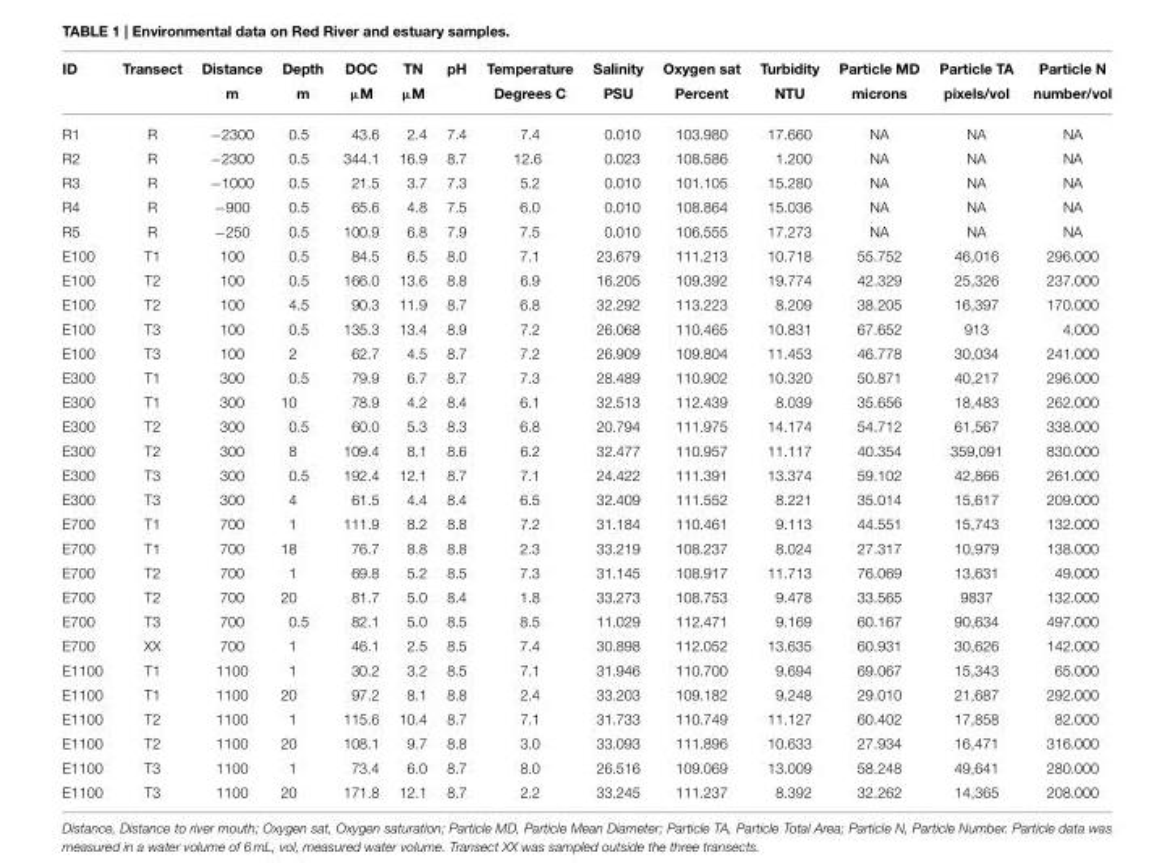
<table><thead><tr><td>ID</td><td>Transect</td><td>Distance m</td><td>Depth m</td><td>DOC µM</td><td>TN µM</td><td>pH</td><td>Temperature Degrees C</td><td>Salinity PSU</td><td>Oxygen sat Percent</td><td>Turbidity NTU</td><td>Particle MD microns</td><td>Particle TA pixels/vol</td><td>Particle N number/vol</td></tr></thead><tbody><tr><td>R1</td><td>R</td><td>−2300</td><td>0.5</td><td>43.6</td><td>2.4</td><td>7.4</td><td>7.4</td><td>0.010</td><td>103.980</td><td>17.660</td><td>NA</td><td>NA</td><td>NA</td></tr><tr><td>R2</td><td>R</td><td>−2300</td><td>0.5</td><td>344.1</td><td>16.9</td><td>8.7</td><td>12.6</td><td>0.023</td><td>108.586</td><td>1.200</td><td>NA</td><td>NA</td><td>NA</td></tr><tr><td>R3</td><td>R</td><td>−1000</td><td>0.5</td><td>21.5</td><td>3.7</td><td>7.3</td><td>5.2</td><td>0.010</td><td>101.105</td><td>15.280</td><td>NA</td><td>NA</td><td>NA</td></tr><tr><td>R4</td><td>R</td><td>−900</td><td>0.5</td><td>65.6</td><td>4.8</td><td>7.5</td><td>6.0</td><td>0.010</td><td>108.864</td><td>15.036</td><td>NA</td><td>NA</td><td>NA</td></tr><tr><td>R5</td><td>R</td><td>−250</td><td>0.5</td><td>100.9</td><td>6.8</td><td>7.9</td><td>7.5</td><td>0.010</td><td>106.555</td><td>17.273</td><td>NA</td><td>NA</td><td>NA</td></tr><tr><td>E100</td><td>T1</td><td>100</td><td>0.5</td><td>84.5</td><td>6.5</td><td>8.0</td><td>7.1</td><td>23.679</td><td>111.213</td><td>10.718</td><td>55.752</td><td>46,016</td><td>296.000</td></tr><tr><td>E100</td><td>T2</td><td>100</td><td>0.5</td><td>166.0</td><td>13.6</td><td>8.8</td><td>6.9</td><td>16.205</td><td>109.392</td><td>19.774</td><td>42.329</td><td>25,326</td><td>237.000</td></tr><tr><td>E100</td><td>T2</td><td>100</td><td>4.5</td><td>90.3</td><td>11.9</td><td>8.7</td><td>6.8</td><td>32.292</td><td>113.223</td><td>8.209</td><td>38.205</td><td>16,397</td><td>170.000</td></tr><tr><td>E100</td><td>T3</td><td>100</td><td>0.5</td><td>135.3</td><td>13.4</td><td>8.9</td><td>7.2</td><td>26.068</td><td>110.465</td><td>10.831</td><td>67.652</td><td>913</td><td>4.000</td></tr><tr><td>E100</td><td>T3</td><td>100</td><td>2</td><td>62.7</td><td>4.5</td><td>8.7</td><td>7.2</td><td>26.909</td><td>109.804</td><td>11.453</td><td>46.778</td><td>30,034</td><td>241.000</td></tr><tr><td>E300</td><td>T1</td><td>300</td><td>0.5</td><td>79.9</td><td>6.7</td><td>8.7</td><td>7.3</td><td>28.489</td><td>110.902</td><td>10.320</td><td>50.871</td><td>40,217</td><td>296.000</td></tr><tr><td>E300</td><td>T1</td><td>300</td><td>10</td><td>78.9</td><td>4.2</td><td>8.4</td><td>6.1</td><td>32.513</td><td>112.439</td><td>8.039</td><td>35.656</td><td>18,483</td><td>262.000</td></tr><tr><td>E300</td><td>T2</td><td>300</td><td>0.5</td><td>60.0</td><td>5.3</td><td>8.3</td><td>6.8</td><td>20.794</td><td>111.975</td><td>14.174</td><td>54.712</td><td>61,567</td><td>338.000</td></tr><tr><td>E300</td><td>T2</td><td>300</td><td>8</td><td>109.4</td><td>8.1</td><td>8.6</td><td>6.2</td><td>32.477</td><td>110.957</td><td>11.117</td><td>40.354</td><td>359,091</td><td>830.000</td></tr><tr><td>E300</td><td>T3</td><td>300</td><td>0.5</td><td>192.4</td><td>12.1</td><td>8.7</td><td>7.1</td><td>24.422</td><td>111.391</td><td>13.374</td><td>59.102</td><td>42,866</td><td>261.000</td></tr><tr><td>E300</td><td>T3</td><td>300</td><td>4</td><td>61.5</td><td>4.4</td><td>8.4</td><td>6.5</td><td>32.409</td><td>111.552</td><td>8.221</td><td>35.014</td><td>15,617</td><td>209.000</td></tr><tr><td>E700</td><td>T1</td><td>700</td><td>1</td><td>111.9</td><td>8.2</td><td>8.8</td><td>7.2</td><td>31.184</td><td>110.461</td><td>9.113</td><td>44.551</td><td>15,743</td><td>132.000</td></tr><tr><td>E700</td><td>T1</td><td>700</td><td>18</td><td>76.7</td><td>8.8</td><td>8.8</td><td>2.3</td><td>33.219</td><td>108.237</td><td>8.024</td><td>27.317</td><td>10,979</td><td>138.000</td></tr><tr><td>E700</td><td>T2</td><td>700</td><td>1</td><td>69.8</td><td>5.2</td><td>8.5</td><td>7.3</td><td>31.145</td><td>108.917</td><td>11.713</td><td>76.069</td><td>13,631</td><td>49.000</td></tr><tr><td>E700</td><td>T2</td><td>700</td><td>20</td><td>81.7</td><td>5.0</td><td>8.4</td><td>1.8</td><td>33.273</td><td>108.753</td><td>9.478</td><td>33.565</td><td>9837</td><td>132.000</td></tr><tr><td>E700</td><td>T3</td><td>700</td><td>0.5</td><td>82.1</td><td>5.0</td><td>8.5</td><td>8.5</td><td>11.029</td><td>112.471</td><td>9.169</td><td>60.167</td><td>90,634</td><td>497.000</td></tr><tr><td>E700</td><td>XX</td><td>700</td><td>1</td><td>46.1</td><td>2.5</td><td>8.5</td><td>7.4</td><td>30.898</td><td>112.052</td><td>13.635</td><td>60.931</td><td>30,626</td><td>142.000</td></tr><tr><td>E1100</td><td>T1</td><td>1100</td><td>1</td><td>30.2</td><td>3.2</td><td>8.5</td><td>7.1</td><td>31.946</td><td>110.700</td><td>9.694</td><td>69.067</td><td>15,343</td><td>65.000</td></tr><tr><td>E1100</td><td>T1</td><td>1100</td><td>20</td><td>97.2</td><td>8.1</td><td>8.8</td><td>2.4</td><td>33.203</td><td>109.182</td><td>9.248</td><td>29.010</td><td>21,687</td><td>292.000</td></tr><tr><td>E1100</td><td>T2</td><td>1100</td><td>1</td><td>115.6</td><td>10.4</td><td>8.7</td><td>7.1</td><td>31.733</td><td>110.749</td><td>11.127</td><td>60.402</td><td>17,858</td><td>82.000</td></tr><tr><td>E1100</td><td>T2</td><td>1100</td><td>20</td><td>108.1</td><td>9.7</td><td>8.8</td><td>3.0</td><td>33.093</td><td>111.896</td><td>10.633</td><td>27.934</td><td>16,471</td><td>316.000</td></tr><tr><td>E1100</td><td>T3</td><td>1100</td><td>1</td><td>73.4</td><td>6.0</td><td>8.7</td><td>8.0</td><td>26.516</td><td>109.069</td><td>13.009</td><td>58.248</td><td>49,641</td><td>280.000</td></tr><tr><td>E1100</td><td>T3</td><td>1100</td><td>20</td><td>171.8</td><td>12.1</td><td>8.7</td><td>2.2</td><td>33.245</td><td>111.237</td><td>8.392</td><td>32.262</td><td>14,365</td><td>208.000</td></tr></tbody></table>